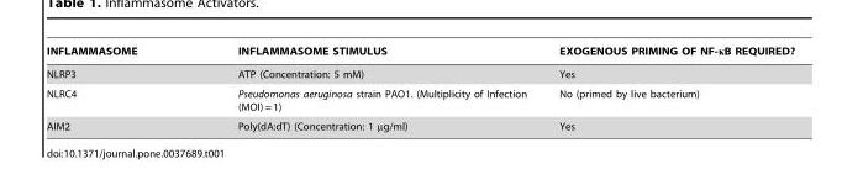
<table><thead><tr><td>INFLAMMASOME</td><td>INFLAMMASOME STIMULUS</td><td>EXOGENOUS PRIMING OF NF-κB REQUIRED?</td></tr></thead><tbody><tr><td>NLRP3</td><td>ATP (Concentration: 5 mM)</td><td>Yes</td></tr><tr><td>NLRC4</td><td>Pseudomonas aeruginosa strain PAO1. (Multiplicity of Infection (MOI) = 1)</td><td>No (primed by live bacterium)</td></tr><tr><td>AIM2</td><td>Poly(dA:dT) (Concentration: 1 µg/ml)</td><td>Yes</td></tr></tbody></table>